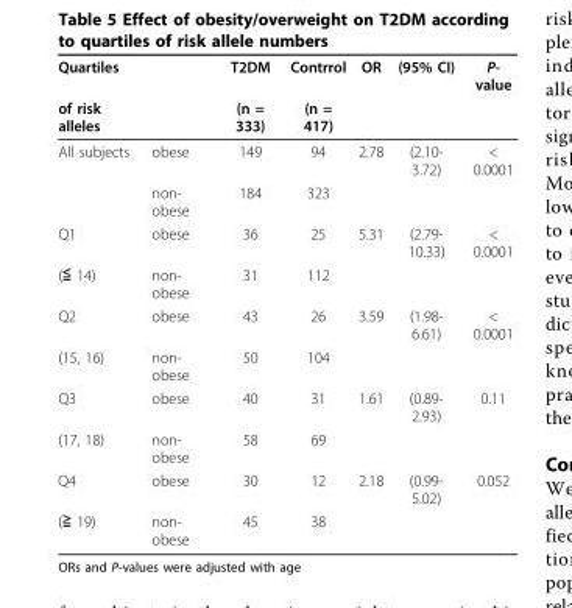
<table><thead><tr><td rowspan="2">Quartiles of risk alleles</td><td rowspan="2"></td><td rowspan="2">T2DM (n = 333)</td><td rowspan="2">Contrrol (n = 417)</td><td rowspan="2">OR</td><td rowspan="2">(95% CI)</td><td rowspan="2">P- value</td></tr><tr></tr></thead><tbody><tr><td rowspan="2">All subjects</td><td>obese</td><td>149</td><td>94</td><td>2.78</td><td>(2.10- 3.72)</td><td>&lt; 0.0001</td></tr><tr><td>non- obese</td><td>184</td><td>323</td><td></td><td></td><td></td></tr><tr><td>Q1</td><td>obese</td><td>36</td><td>25</td><td>5.31</td><td>(2.79- 10.33)</td><td>&lt; 0.0001</td></tr><tr><td>(≦ 14)</td><td>non- obese</td><td>31</td><td>112</td><td></td><td></td><td></td></tr><tr><td>Q2</td><td>obese</td><td>43</td><td>26</td><td>3.59</td><td>(1.98- 6.61)</td><td>&lt; 0.0001</td></tr><tr><td>(15, 16)</td><td>non- obese</td><td>50</td><td>104</td><td></td><td></td><td></td></tr><tr><td>Q3</td><td>obese</td><td>40</td><td>31</td><td>1.61</td><td>(0.89- 2.93)</td><td>0.11</td></tr><tr><td>(17, 18)</td><td>non- obese</td><td>58</td><td>69</td><td></td><td></td><td></td></tr><tr><td>Q4</td><td>obese</td><td>30</td><td>12</td><td>2.18</td><td>(0.99- 5.02)</td><td>0.052</td></tr><tr><td>(≧ 19)</td><td>non- obese</td><td>45</td><td>38</td><td></td><td></td><td></td></tr></tbody></table>